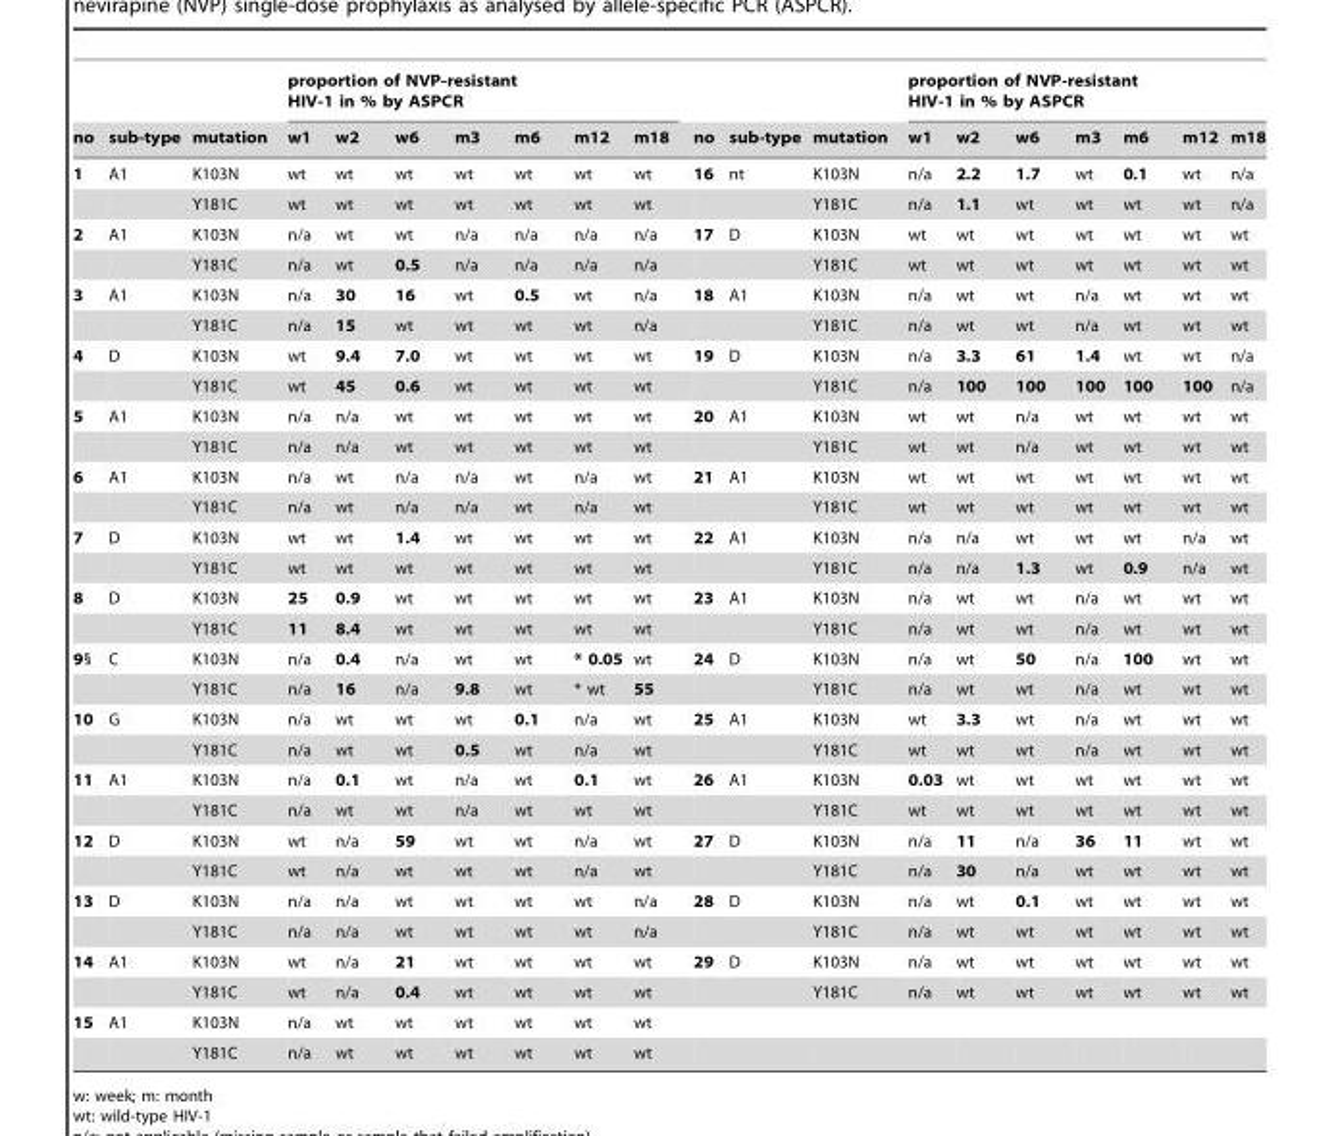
<table><thead><tr><td rowspan="2">no</td><td rowspan="2">sub-type</td><td rowspan="2">mutation</td><td colspan="7">proportion of NVP-resistant HIV-1 in % by ASPCR</td><td rowspan="2">no</td><td rowspan="2">sub-type</td><td rowspan="2">mutation</td><td colspan="7">proportion of NVP-resistant HIV-1 in % by ASPCR</td></tr><tr><td>w1</td><td>w2</td><td>w6</td><td>m3</td><td>m6</td><td>m12</td><td>m18</td><td>w1</td><td>w2</td><td>w6</td><td>m3</td><td>m6</td><td>m12</td><td>m18</td></tr></thead><tbody><tr><td rowspan="2">1</td><td>A1</td><td>K103N</td><td>wt</td><td>wt</td><td>wt</td><td>wt</td><td>wt</td><td>wt</td><td>wt</td><td>16</td><td>nt</td><td>K103N</td><td>n/a</td><td>2.2</td><td>1.7</td><td>wt</td><td>0.1</td><td>wt</td><td>n/a</td></tr><tr><td></td><td>Y181C</td><td>wt</td><td>wt</td><td>wt</td><td>wt</td><td>wt</td><td>wt</td><td>wt</td><td></td><td></td><td>Y181C</td><td>n/a</td><td>1.1</td><td>wt</td><td>wt</td><td>wt</td><td>wt</td><td>n/a</td></tr><tr><td rowspan="2">2</td><td>A1</td><td>K103N</td><td>n/a</td><td>wt</td><td>wt</td><td>n/a</td><td>n/a</td><td>n/a</td><td>n/a</td><td>17</td><td>D</td><td>K103N</td><td>wt</td><td>wt</td><td>wt</td><td>wt</td><td>wt</td><td>wt</td><td>wt</td></tr><tr><td></td><td>Y181C</td><td>n/a</td><td>wt</td><td>0.5</td><td>n/a</td><td>n/a</td><td>n/a</td><td>n/a</td><td></td><td></td><td>Y181C</td><td>wt</td><td>wt</td><td>wt</td><td>wt</td><td>wt</td><td>wt</td><td>wt</td></tr><tr><td rowspan="2">3</td><td>A1</td><td>K103N</td><td>n/a</td><td>30</td><td>16</td><td>wt</td><td>0.5</td><td>wt</td><td>n/a</td><td>18</td><td>A1</td><td>K103N</td><td>n/a</td><td>wt</td><td>wt</td><td>n/a</td><td>wt</td><td>wt</td><td>wt</td></tr><tr><td></td><td>Y181C</td><td>n/a</td><td>15</td><td>wt</td><td>wt</td><td>wt</td><td>wt</td><td>n/a</td><td></td><td></td><td>Y181C</td><td>n/a</td><td>wt</td><td>wt</td><td>n/a</td><td>wt</td><td>wt</td><td>wt</td></tr><tr><td rowspan="2">4</td><td>D</td><td>K103N</td><td>wt</td><td>9.4</td><td>7.0</td><td>wt</td><td>wt</td><td>wt</td><td>wt</td><td>19</td><td>D</td><td>K103N</td><td>n/a</td><td>3.3</td><td>61</td><td>1.4</td><td>wt</td><td>wt</td><td>n/a</td></tr><tr><td></td><td>Y181C</td><td>wt</td><td>45</td><td>0.6</td><td>wt</td><td>wt</td><td>wt</td><td>wt</td><td></td><td></td><td>Y181C</td><td>n/a</td><td>100</td><td>100</td><td>100</td><td>100</td><td>100</td><td>n/a</td></tr><tr><td rowspan="2">5</td><td>A1</td><td>K103N</td><td>n/a</td><td>n/a</td><td>wt</td><td>wt</td><td>wt</td><td>wt</td><td>wt</td><td>20</td><td>A1</td><td>K103N</td><td>wt</td><td>wt</td><td>n/a</td><td>wt</td><td>wt</td><td>wt</td><td>wt</td></tr><tr><td></td><td>Y181C</td><td>n/a</td><td>n/a</td><td>wt</td><td>wt</td><td>wt</td><td>wt</td><td>wt</td><td></td><td></td><td>Y181C</td><td>wt</td><td>wt</td><td>n/a</td><td>wt</td><td>wt</td><td>wt</td><td>wt</td></tr><tr><td rowspan="2">6</td><td>A1</td><td>K103N</td><td>n/a</td><td>wt</td><td>n/a</td><td>n/a</td><td>wt</td><td>n/a</td><td>wt</td><td>21</td><td>A1</td><td>K103N</td><td>wt</td><td>wt</td><td>wt</td><td>wt</td><td>wt</td><td>wt</td><td>wt</td></tr><tr><td></td><td>Y181C</td><td>n/a</td><td>wt</td><td>n/a</td><td>n/a</td><td>wt</td><td>n/a</td><td>wt</td><td></td><td></td><td>Y181C</td><td>wt</td><td>wt</td><td>wt</td><td>wt</td><td>wt</td><td>wt</td><td>wt</td></tr><tr><td rowspan="2">7</td><td>D</td><td>K103N</td><td>wt</td><td>wt</td><td>1.4</td><td>wt</td><td>wt</td><td>wt</td><td>wt</td><td>22</td><td>A1</td><td>K103N</td><td>n/a</td><td>n/a</td><td>wt</td><td>wt</td><td>wt</td><td>n/a</td><td>wt</td></tr><tr><td></td><td>Y181C</td><td>wt</td><td>wt</td><td>wt</td><td>wt</td><td>wt</td><td>wt</td><td>wt</td><td></td><td></td><td>Y181C</td><td>n/a</td><td>n/a</td><td>1.3</td><td>wt</td><td>0.9</td><td>n/a</td><td>wt</td></tr><tr><td rowspan="2">8</td><td>D</td><td>K103N</td><td>25</td><td>0.9</td><td>wt</td><td>wt</td><td>wt</td><td>wt</td><td>wt</td><td>23</td><td>A1</td><td>K103N</td><td>n/a</td><td>wt</td><td>wt</td><td>n/a</td><td>wt</td><td>wt</td><td>wt</td></tr><tr><td></td><td>Y181C</td><td>11</td><td>8.4</td><td>wt</td><td>wt</td><td>wt</td><td>wt</td><td>wt</td><td></td><td></td><td>Y181C</td><td>n/a</td><td>wt</td><td>wt</td><td>n/a</td><td>wt</td><td>wt</td><td>wt</td></tr><tr><td rowspan="2">9§</td><td>C</td><td>K103N</td><td>n/a</td><td>0.4</td><td>n/a</td><td>wt</td><td>wt</td><td>* 0.05</td><td>wt</td><td>24</td><td>D</td><td>K103N</td><td>n/a</td><td>wt</td><td>50</td><td>n/a</td><td>100</td><td>wt</td><td>wt</td></tr><tr><td></td><td>Y181C</td><td>n/a</td><td>16</td><td>n/a</td><td>9.8</td><td>wt</td><td>* wt</td><td>55</td><td></td><td></td><td>Y181C</td><td>n/a</td><td>wt</td><td>wt</td><td>n/a</td><td>wt</td><td>wt</td><td>wt</td></tr><tr><td rowspan="2">10</td><td>G</td><td>K103N</td><td>n/a</td><td>wt</td><td>wt</td><td>wt</td><td>0.1</td><td>n/a</td><td>wt</td><td>25</td><td>A1</td><td>K103N</td><td>wt</td><td>3.3</td><td>wt</td><td>n/a</td><td>wt</td><td>wt</td><td>wt</td></tr><tr><td></td><td>Y181C</td><td>n/a</td><td>wt</td><td>wt</td><td>0.5</td><td>wt</td><td>n/a</td><td>wt</td><td></td><td></td><td>Y181C</td><td>wt</td><td>wt</td><td>wt</td><td>n/a</td><td>wt</td><td>wt</td><td>wt</td></tr><tr><td rowspan="2">11</td><td>A1</td><td>K103N</td><td>n/a</td><td>0.1</td><td>wt</td><td>n/a</td><td>wt</td><td>0.1</td><td>wt</td><td>26</td><td>A1</td><td>K103N</td><td>0.03</td><td>wt</td><td>wt</td><td>wt</td><td>wt</td><td>wt</td><td>wt</td></tr><tr><td></td><td>Y181C</td><td>n/a</td><td>wt</td><td>wt</td><td>n/a</td><td>wt</td><td>wt</td><td>wt</td><td></td><td></td><td>Y181C</td><td>wt</td><td>wt</td><td>wt</td><td>wt</td><td>wt</td><td>wt</td><td>wt</td></tr><tr><td rowspan="2">12</td><td>D</td><td>K103N</td><td>wt</td><td>n/a</td><td>59</td><td>wt</td><td>wt</td><td>n/a</td><td>wt</td><td>27</td><td>D</td><td>K103N</td><td>n/a</td><td>11</td><td>n/a</td><td>36</td><td>11</td><td>wt</td><td>wt</td></tr><tr><td></td><td>Y181C</td><td>wt</td><td>n/a</td><td>wt</td><td>wt</td><td>wt</td><td>n/a</td><td>wt</td><td></td><td></td><td>Y181C</td><td>n/a</td><td>30</td><td>n/a</td><td>wt</td><td>wt</td><td>wt</td><td>wt</td></tr><tr><td rowspan="2">13</td><td>D</td><td>K103N</td><td>n/a</td><td>n/a</td><td>wt</td><td>wt</td><td>wt</td><td>wt</td><td>n/a</td><td>28</td><td>D</td><td>K103N</td><td>n/a</td><td>wt</td><td>0.1</td><td>wt</td><td>wt</td><td>wt</td><td>wt</td></tr><tr><td></td><td>Y181C</td><td>n/a</td><td>n/a</td><td>wt</td><td>wt</td><td>wt</td><td>wt</td><td>n/a</td><td></td><td></td><td>Y181C</td><td>n/a</td><td>wt</td><td>wt</td><td>wt</td><td>wt</td><td>wt</td><td>wt</td></tr><tr><td rowspan="2">14</td><td>A1</td><td>K103N</td><td>wt</td><td>n/a</td><td>21</td><td>wt</td><td>wt</td><td>wt</td><td>wt</td><td>29</td><td>D</td><td>K103N</td><td>n/a</td><td>wt</td><td>wt</td><td>wt</td><td>wt</td><td>wt</td><td>wt</td></tr><tr><td></td><td>Y181C</td><td>wt</td><td>n/a</td><td>0.4</td><td>wt</td><td>wt</td><td>wt</td><td>wt</td><td></td><td></td><td>Y181C</td><td>n/a</td><td>wt</td><td>wt</td><td>wt</td><td>wt</td><td>wt</td><td>wt</td></tr><tr><td rowspan="2">15</td><td>A1</td><td>K103N</td><td>n/a</td><td>wt</td><td>wt</td><td>wt</td><td>wt</td><td>wt</td><td>wt</td><td></td><td></td><td></td><td></td><td></td><td></td><td></td><td></td><td></td><td></td></tr><tr><td></td><td>Y181C</td><td>n/a</td><td>wt</td><td>wt</td><td>wt</td><td>wt</td><td>wt</td><td>wt</td><td></td><td></td><td></td><td></td><td></td><td></td><td></td><td></td><td></td><td></td></tr></tbody></table>